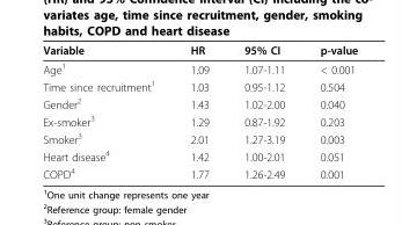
<table><thead><tr><td>Variable</td><td>HR</td><td>95% CI</td><td>p-value</td></tr></thead><tbody><tr><td>Age<sup>1</sup></td><td>1.09</td><td>1.07-1.11</td><td>&lt; 0.001</td></tr><tr><td>Time since recruitment<sup>1</sup></td><td>1.03</td><td>0.95-1.12</td><td>0.504</td></tr><tr><td>Gender<sup>2</sup></td><td>1.43</td><td>1.02-2.00</td><td>0.040</td></tr><tr><td>Ex-smoker<sup>3</sup></td><td>1.29</td><td>0.87-1.92</td><td>0.203</td></tr><tr><td>Smoker<sup>3</sup></td><td>2.01</td><td>1.27-3.19</td><td>0.003</td></tr><tr><td>Heart disease<sup>4</sup></td><td>1.42</td><td>1.00-2.01</td><td>0.051</td></tr><tr><td>COPD<sup>4</sup></td><td>1.77</td><td>1.26-2.49</td><td>0.001</td></tr></tbody></table>